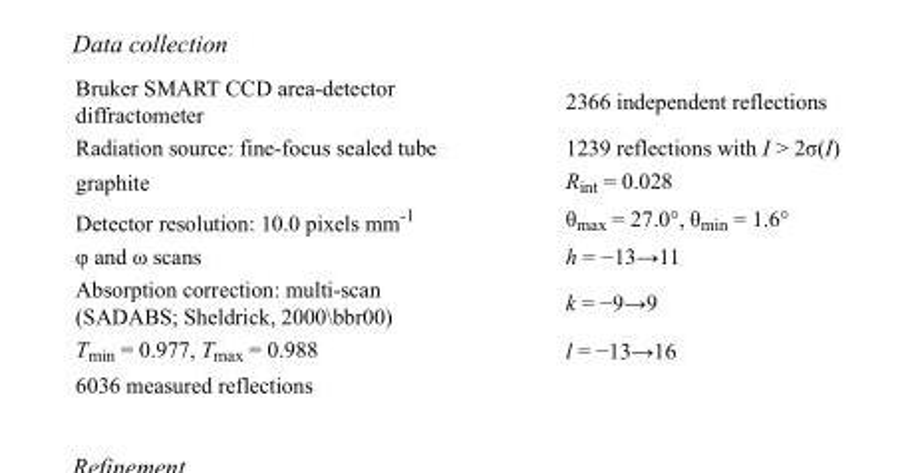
<table><tbody><tr><td>Bruker SMART CCD area-detector diffractometer</td><td>2366 independent reflections</td></tr><tr><td>Radiation source: fine-focus sealed tube</td><td>1239 reflections with I &gt; 2σ(I)</td></tr><tr><td>graphite</td><td>R<sub>int</sub> = 0.028</td></tr><tr><td>Detector resolution: 10.0 pixels mm<sup>-1</sup></td><td>θ<sub>max</sub> = 27.0°, θ<sub>min</sub> = 1.6°</td></tr><tr><td>φ and ω scans</td><td>h = −13→11</td></tr><tr><td>Absorption correction: multi-scan (SADABS; Sheldrick, 2000\bbr00)</td><td>k = −9→9</td></tr><tr><td>T<sub>min</sub> = 0.977, T<sub>max</sub> = 0.988</td><td>l = −13→16</td></tr><tr><td>6036 measured reflections</td><td></td></tr></tbody></table>